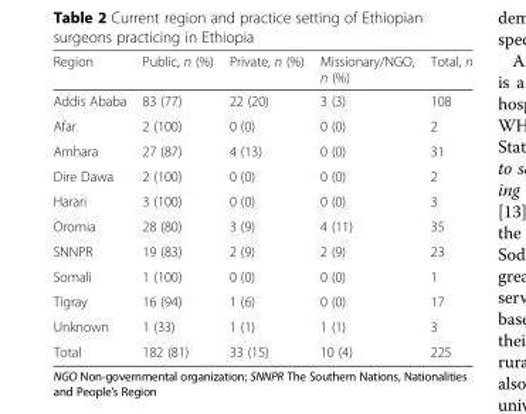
<table><thead><tr><td>Region</td><td>Public, n (%)</td><td>Private, n (%)</td><td>Missionary/NGO, n (%)</td><td>Total, n</td></tr></thead><tbody><tr><td>Addis Ababa</td><td>83 (77)</td><td>22 (20)</td><td>3 (3)</td><td>108</td></tr><tr><td>Afar</td><td>2 (100)</td><td>0 (0)</td><td>0 (0)</td><td>2</td></tr><tr><td>Amhara</td><td>27 (87)</td><td>4 (13)</td><td>0 (0)</td><td>31</td></tr><tr><td>Dire Dawa</td><td>2 (100)</td><td>0 (0)</td><td>0 (0)</td><td>2</td></tr><tr><td>Harari</td><td>3 (100)</td><td>0 (0)</td><td>0 (0)</td><td>3</td></tr><tr><td>Oromia</td><td>28 (80)</td><td>3 (9)</td><td>4 (11)</td><td>35</td></tr><tr><td>SNNPR</td><td>19 (83)</td><td>2 (9)</td><td>2 (9)</td><td>23</td></tr><tr><td>Somali</td><td>1 (100)</td><td>0 (0)</td><td>0 (0)</td><td>1</td></tr><tr><td>Tigray</td><td>16 (94)</td><td>1 (6)</td><td>0 (0)</td><td>17</td></tr><tr><td>Unknown</td><td>1 (33)</td><td>1 (1)</td><td>1 (1)</td><td>3</td></tr><tr><td>Total</td><td>182 (81)</td><td>33 (15)</td><td>10 (4)</td><td>225</td></tr></tbody></table>